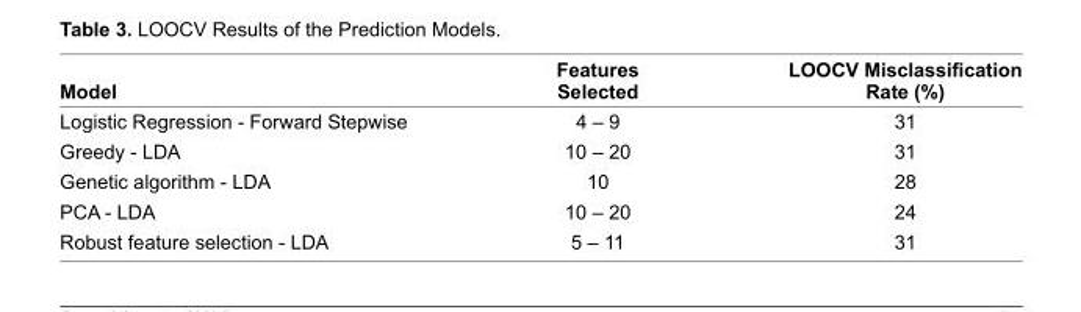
<table><thead><tr><td>Model</td><td>Features Selected</td><td>LOOCV Misclassifi cation Rate (%)</td></tr></thead><tbody><tr><td>Logistic Regression - Forward Stepwise</td><td>4 – 9</td><td>31</td></tr><tr><td>Greedy - LDA</td><td>10 – 20</td><td>31</td></tr><tr><td>Genetic algorithm - LDA</td><td>10</td><td>28</td></tr><tr><td>PCA - LDA</td><td>10 – 20</td><td>24</td></tr><tr><td>Robust feature selection - LDA</td><td>5 – 11</td><td>31</td></tr></tbody></table>